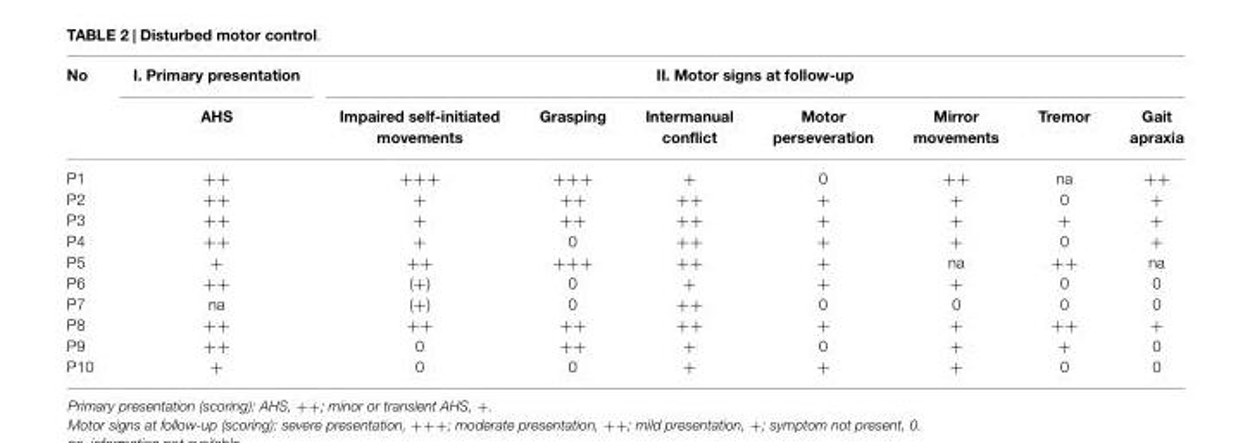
<table><thead><tr><td rowspan="2">No</td><td rowspan="2">I. Primary presentation AHS</td><td colspan="7">II. Motor signs at follow-up</td></tr><tr><td>Impaired self-initiated movements</td><td>Grasping</td><td>Intermanual conflict</td><td>Motor perseveration</td><td>Mirror movements</td><td>Tremor</td><td>Gait apraxia</td></tr></thead><tbody><tr><td>P1</td><td>++</td><td>+++</td><td>+++</td><td>+</td><td>0</td><td>++</td><td>na</td><td>++</td></tr><tr><td>P2</td><td>++</td><td>+</td><td>++</td><td>++</td><td>+</td><td>+</td><td>0</td><td>+</td></tr><tr><td>P3</td><td>++</td><td>+</td><td>++</td><td>++</td><td>+</td><td>+</td><td>+</td><td>+</td></tr><tr><td>P4</td><td>++</td><td>+</td><td>0</td><td>++</td><td>+</td><td>+</td><td>0</td><td>+</td></tr><tr><td>P5</td><td>+</td><td>++</td><td>+++</td><td>++</td><td>+</td><td>na</td><td>++</td><td>na</td></tr><tr><td>P6</td><td>++</td><td>(+)</td><td>0</td><td>+</td><td>+</td><td>+</td><td>0</td><td>0</td></tr><tr><td>P7</td><td>na</td><td>(+)</td><td>0</td><td>++</td><td>0</td><td>0</td><td>0</td><td>0</td></tr><tr><td>P8</td><td>++</td><td>++</td><td>++</td><td>++</td><td>+</td><td>+</td><td>++</td><td>+</td></tr><tr><td>P9</td><td>++</td><td>0</td><td>++</td><td>+</td><td>0</td><td>+</td><td>+</td><td>0</td></tr><tr><td>P10</td><td>+</td><td>0</td><td>0</td><td>+</td><td>+</td><td>+</td><td>0</td><td>0</td></tr></tbody></table>